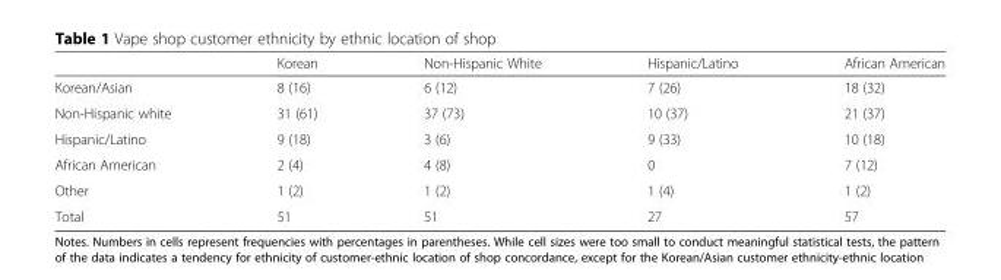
<table><thead><tr><td></td><td>Korean</td><td>Non-Hispanic White</td><td>Hispanic/Latino</td><td>African American</td></tr></thead><tbody><tr><td>Korean/Asian</td><td>8 (16)</td><td>6 (12)</td><td>7 (26)</td><td>18 (32)</td></tr><tr><td>Non-Hispanic white</td><td>31 (61)</td><td>37 (73)</td><td>10 (37)</td><td>21 (37)</td></tr><tr><td>Hispanic/Latino</td><td>9 (18)</td><td>3 (6)</td><td>9 (33)</td><td>10 (18)</td></tr><tr><td>African American</td><td>2 (4)</td><td>4 (8)</td><td>0</td><td>7 (12)</td></tr><tr><td>Other</td><td>1 (2)</td><td>1 (2)</td><td>1 (4)</td><td>1 (2)</td></tr><tr><td>Total</td><td>51</td><td>51</td><td>27</td><td>57</td></tr></tbody></table>